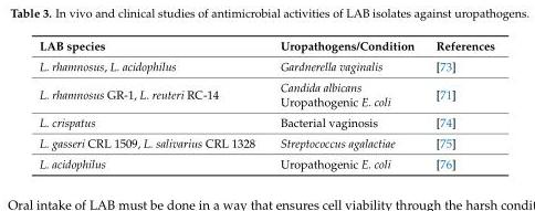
<table><thead><tr><td>LAB species</td><td>Uropathogens/Condition</td><td>References</td></tr></thead><tbody><tr><td>L. rhamnosus, L. acidophilus</td><td>Gardnerella vaginalis</td><td>[73]</td></tr><tr><td>L. rhamnosus GR-1, L. reuteri RC-14</td><td>Candida albicans Uropathogenic E. coli</td><td>[71]</td></tr><tr><td>L. crispatus</td><td>Bacterial vaginosis</td><td>[74]</td></tr><tr><td>L. gasseri CRL 1509, L. salivarius CRL 1328</td><td>Streptococcus agalactiae</td><td>[75]</td></tr><tr><td>L. acidophilus</td><td>Uropathogenic E. coli</td><td>[76]</td></tr></tbody></table>